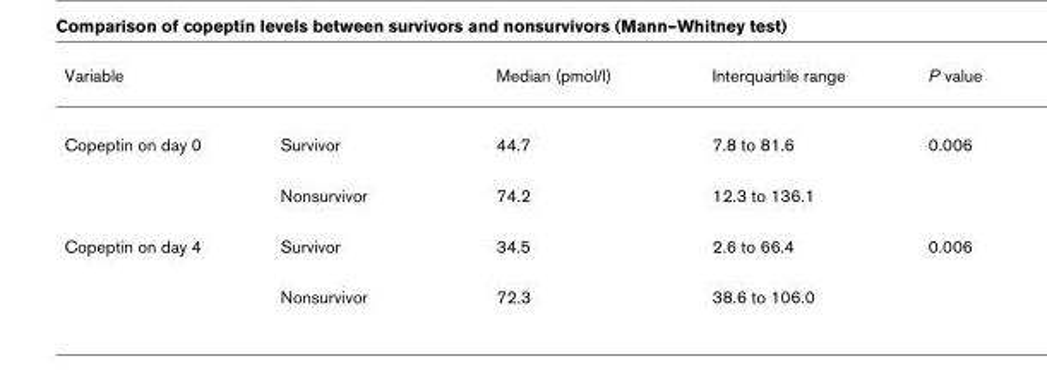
<table><thead><tr><td>Variable</td><td></td><td>Median (pmol/l)</td><td>Interquartile range</td><td>P value</td></tr></thead><tbody><tr><td rowspan="2">Copeptin on day 0</td><td>Survivor</td><td>44.7</td><td>7.8 to 81.6</td><td>0.006</td></tr><tr><td>Nonsurvivor</td><td>74.2</td><td>12.3 to 136.1</td><td></td></tr><tr><td rowspan="2">Copeptin on day 4</td><td>Survivor</td><td>34.5</td><td>2.6 to 66.4</td><td>0.006</td></tr><tr><td>Nonsurvivor</td><td>72.3</td><td>38.6 to 106.0</td><td></td></tr></tbody></table>